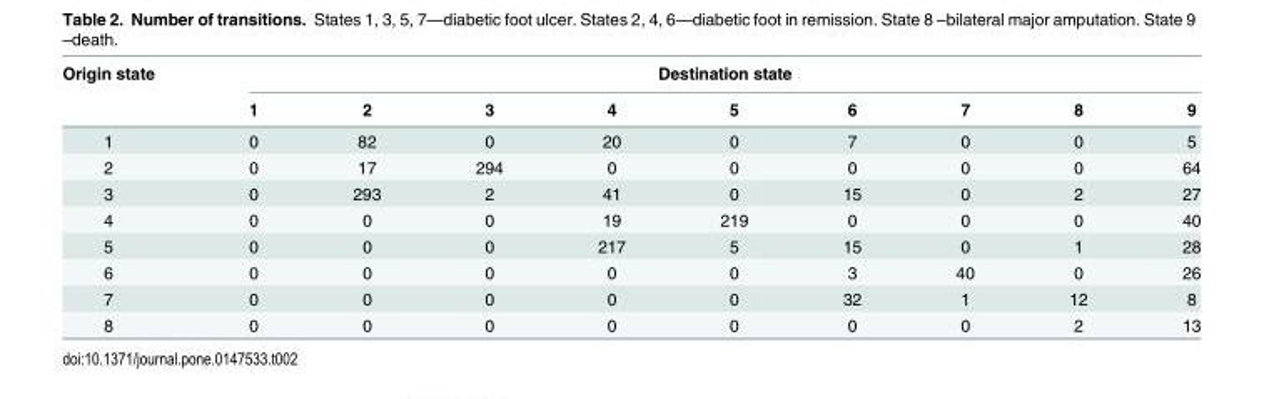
<table><thead><tr><td rowspan="2">Origin state</td><td colspan="9">Destination state</td></tr><tr><td>1</td><td>2</td><td>3</td><td>4</td><td>5</td><td>6</td><td>7</td><td>8</td><td>9</td></tr></thead><tbody><tr><td>1</td><td>0</td><td>82</td><td>0</td><td>20</td><td>0</td><td>7</td><td>0</td><td>0</td><td>5</td></tr><tr><td>2</td><td>0</td><td>17</td><td>294</td><td>0</td><td>0</td><td>0</td><td>0</td><td>0</td><td>64</td></tr><tr><td>3</td><td>0</td><td>293</td><td>2</td><td>41</td><td>0</td><td>15</td><td>0</td><td>2</td><td>27</td></tr><tr><td>4</td><td>0</td><td>0</td><td>0</td><td>19</td><td>219</td><td>0</td><td>0</td><td>0</td><td>40</td></tr><tr><td>5</td><td>0</td><td>0</td><td>0</td><td>217</td><td>5</td><td>15</td><td>0</td><td>1</td><td>28</td></tr><tr><td>6</td><td>0</td><td>0</td><td>0</td><td>0</td><td>0</td><td>3</td><td>40</td><td>0</td><td>26</td></tr><tr><td>7</td><td>0</td><td>0</td><td>0</td><td>0</td><td>0</td><td>32</td><td>1</td><td>12</td><td>8</td></tr><tr><td>8</td><td>0</td><td>0</td><td>0</td><td>0</td><td>0</td><td>0</td><td>0</td><td>2</td><td>13</td></tr></tbody></table>